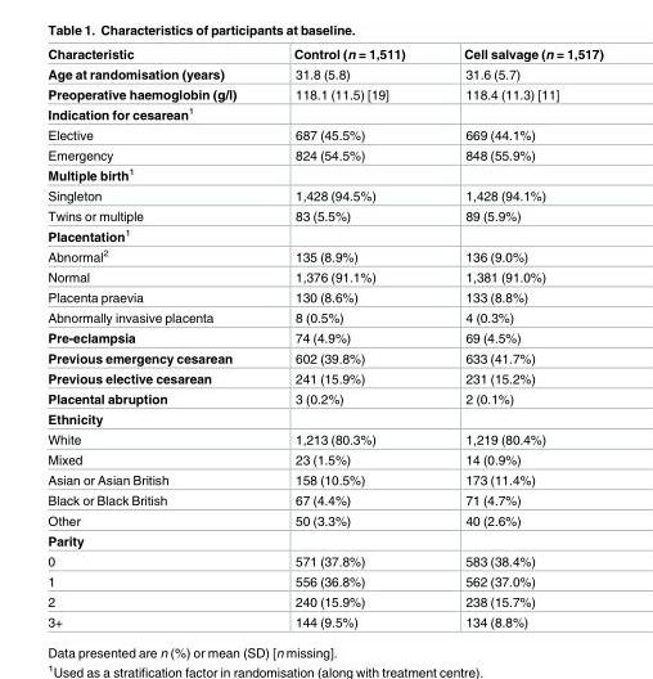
<table><thead><tr><td>Characteristic</td><td>Control (n = 1,511)</td><td>Cell salvage (n = 1,517)</td></tr></thead><tbody><tr><td>Age at randomisation (years)</td><td>31.8 (5.8)</td><td>31.6 (5.7)</td></tr><tr><td>Preoperative haemoglobin (g/l)</td><td>118.1 (11.5) [19]</td><td>118.4 (11.3) [11]</td></tr><tr><td colspan="3">Indication for cesarean<sup>1</sup></td></tr><tr><td>Elective</td><td>687 (45.5%)</td><td>669 (44.1%)</td></tr><tr><td>Emergency</td><td>824 (54.5%)</td><td>848 (55.9%)</td></tr><tr><td colspan="3">Multiple birth<sup>1</sup></td></tr><tr><td>Singleton</td><td>1,428 (94.5%)</td><td>1,428 (94.1%)</td></tr><tr><td>Twins or multiple</td><td>83 (5.5%)</td><td>89 (5.9%)</td></tr><tr><td colspan="3">Placentation<sup>1</sup></td></tr><tr><td>Abnormal<sup>2</sup></td><td>135 (8.9%)</td><td>136 (9.0%)</td></tr><tr><td>Normal</td><td>1,376 (91.1%)</td><td>1,381 (91.0%)</td></tr><tr><td>Placenta praevia</td><td>130 (8.6%)</td><td>133 (8.8%)</td></tr><tr><td>Abnormally invasive placenta</td><td>8 (0.5%)</td><td>4 (0.3%)</td></tr><tr><td>Pre-eclampsia</td><td>74 (4.9%)</td><td>69 (4.5%)</td></tr><tr><td>Previous emergency cesarean</td><td>602 (39.8%)</td><td>633 (41.7%)</td></tr><tr><td>Previous elective cesarean</td><td>241 (15.9%)</td><td>231 (15.2%)</td></tr><tr><td>Placental abruption</td><td>3 (0.2%)</td><td>2 (0.1%)</td></tr><tr><td colspan="3">Ethnicity</td></tr><tr><td>White</td><td>1,213 (80.3%)</td><td>1,219 (80.4%)</td></tr><tr><td>Mixed</td><td>23 (1.5%)</td><td>14 (0.9%)</td></tr><tr><td>Asian or Asian British</td><td>158 (10.5%)</td><td>173 (11.4%)</td></tr><tr><td>Black or Black British</td><td>67 (4.4%)</td><td>71 (4.7%)</td></tr><tr><td>Other</td><td>50 (3.3%)</td><td>40 (2.6%)</td></tr><tr><td colspan="3">Parity</td></tr><tr><td>0</td><td>571 (37.8%)</td><td>583 (38.4%)</td></tr><tr><td>1</td><td>556 (36.8%)</td><td>562 (37.0%)</td></tr><tr><td>2</td><td>240 (15.9%)</td><td>238 (15.7%)</td></tr><tr><td>3+</td><td>144 (9.5%)</td><td>134 (8.8%)</td></tr></tbody></table>